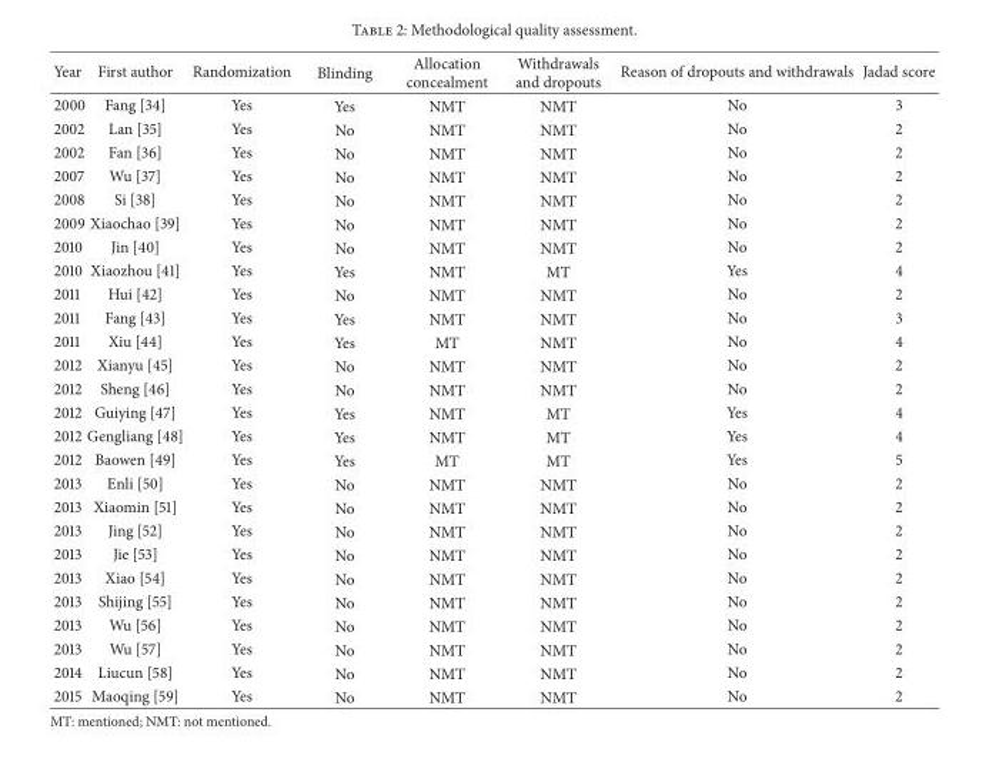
<table><thead><tr><td>Year</td><td>First author</td><td>Randomization</td><td>Blinding</td><td>Allocation concealment</td><td>Withdrawals and dropouts</td><td>Reason of dropouts and withdrawals</td><td>Jadad score</td></tr></thead><tbody><tr><td>2000</td><td>Fang [34]</td><td>Yes</td><td>Yes</td><td>NMT</td><td>NMT</td><td>No</td><td>3</td></tr><tr><td>2002</td><td>Lan [35]</td><td>Yes</td><td>No</td><td>NMT</td><td>NMT</td><td>No</td><td>2</td></tr><tr><td>2002</td><td>Fan [36]</td><td>Yes</td><td>No</td><td>NMT</td><td>NMT</td><td>No</td><td>2</td></tr><tr><td>2007</td><td>Wu [37]</td><td>Yes</td><td>No</td><td>NMT</td><td>NMT</td><td>No</td><td>2</td></tr><tr><td>2008</td><td>Si [38]</td><td>Yes</td><td>No</td><td>NMT</td><td>NMT</td><td>No</td><td>2</td></tr><tr><td>2009</td><td>Xiaochao [39]</td><td>Yes</td><td>No</td><td>NMT</td><td>NMT</td><td>No</td><td>2</td></tr><tr><td>2010</td><td>Jin [40]</td><td>Yes</td><td>No</td><td>NMT</td><td>NMT</td><td>No</td><td>2</td></tr><tr><td>2010</td><td>Xiaozhou [41]</td><td>Yes</td><td>Yes</td><td>NMT</td><td>MT</td><td>Yes</td><td>4</td></tr><tr><td>2011</td><td>Hui [42]</td><td>Yes</td><td>No</td><td>NMT</td><td>NMT</td><td>No</td><td>2</td></tr><tr><td>2011</td><td>Fang [43]</td><td>Yes</td><td>Yes</td><td>NMT</td><td>NMT</td><td>No</td><td>3</td></tr><tr><td>2011</td><td>Xiu [44]</td><td>Yes</td><td>Yes</td><td>MT</td><td>NMT</td><td>No</td><td>4</td></tr><tr><td>2012</td><td>Xianyu [45]</td><td>Yes</td><td>No</td><td>NMT</td><td>NMT</td><td>No</td><td>2</td></tr><tr><td>2012</td><td>Sheng [46]</td><td>Yes</td><td>No</td><td>NMT</td><td>NMT</td><td>No</td><td>2</td></tr><tr><td>2012</td><td>Guiying [47]</td><td>Yes</td><td>Yes</td><td>NMT</td><td>MT</td><td>Yes</td><td>4</td></tr><tr><td>2012</td><td>Gengliang [48]</td><td>Yes</td><td>Yes</td><td>NMT</td><td>MT</td><td>Yes</td><td>4</td></tr><tr><td>2012</td><td>Baowen [49]</td><td>Yes</td><td>Yes</td><td>MT</td><td>MT</td><td>Yes</td><td>5</td></tr><tr><td>2013</td><td>Enli [50]</td><td>Yes</td><td>No</td><td>NMT</td><td>NMT</td><td>No</td><td>2</td></tr><tr><td>2013</td><td>Xiaomin [51]</td><td>Yes</td><td>No</td><td>NMT</td><td>NMT</td><td>No</td><td>2</td></tr><tr><td>2013</td><td>Jing [52]</td><td>Yes</td><td>No</td><td>NMT</td><td>NMT</td><td>No</td><td>2</td></tr><tr><td>2013</td><td>Jie [53]</td><td>Yes</td><td>No</td><td>NMT</td><td>NMT</td><td>No</td><td>2</td></tr><tr><td>2013</td><td>Xiao [54]</td><td>Yes</td><td>No</td><td>NMT</td><td>NMT</td><td>No</td><td>2</td></tr><tr><td>2013</td><td>Shijing [55]</td><td>Yes</td><td>No</td><td>NMT</td><td>NMT</td><td>No</td><td>2</td></tr><tr><td>2013</td><td>Wu [56]</td><td>Yes</td><td>No</td><td>NMT</td><td>NMT</td><td>No</td><td>2</td></tr><tr><td>2013</td><td>Wu [57]</td><td>Yes</td><td>No</td><td>NMT</td><td>NMT</td><td>No</td><td>2</td></tr><tr><td>2014</td><td>Liucun [58]</td><td>Yes</td><td>No</td><td>NMT</td><td>NMT</td><td>No</td><td>2</td></tr><tr><td>2015</td><td>Maoqing [59]</td><td>Yes</td><td>No</td><td>NMT</td><td>NMT</td><td>No</td><td>2</td></tr></tbody></table>